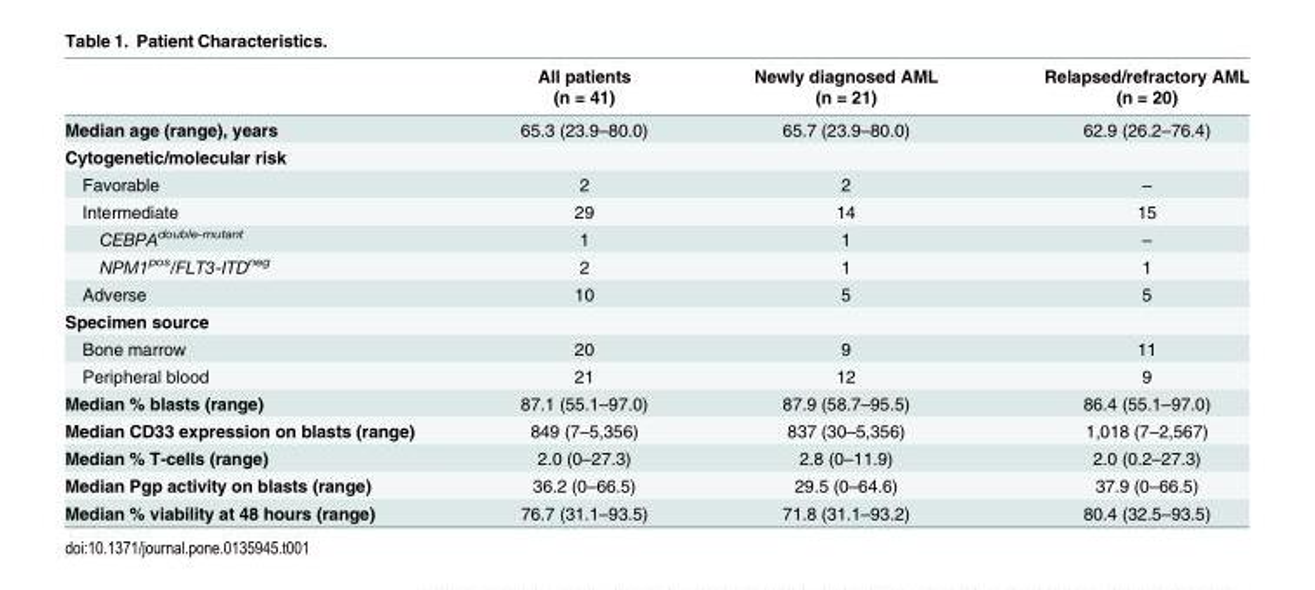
<table><thead><tr><td rowspan="2"></td><td rowspan="2">All patients (n = 41)</td><td rowspan="2">Newly diagnosed AML (n = 21)</td><td rowspan="2">Relapsed/refractory AML (n = 20)</td></tr><tr></tr></thead><tbody><tr><td>Median age (range), years</td><td>65.3 (23.9–80.0)</td><td>65.7 (23.9–80.0)</td><td>62.9 (26.2–76.4)</td></tr><tr><td colspan="4">Cytogenetic/molecular risk</td></tr><tr><td>Favorable</td><td>2</td><td>2</td><td>–</td></tr><tr><td>Intermediate</td><td>29</td><td>14</td><td>15</td></tr><tr><td>CEBPA<sup>double-mutant</sup></td><td>1</td><td>1</td><td>–</td></tr><tr><td>NPM1<sup>pos</sup>/FLT3-ITD<sup>neg</sup></td><td>2</td><td>1</td><td>1</td></tr><tr><td>Adverse</td><td>10</td><td>5</td><td>5</td></tr><tr><td colspan="4">Specimen source</td></tr><tr><td>Bone marrow</td><td>20</td><td>9</td><td>11</td></tr><tr><td>Peripheral blood</td><td>21</td><td>12</td><td>9</td></tr><tr><td>Median % blasts (range)</td><td>87.1 (55.1–97.0)</td><td>87.9 (58.7–95.5)</td><td>86.4 (55.1–97.0)</td></tr><tr><td>Median CD33 expression on blasts (range)</td><td>849 (7–5,356)</td><td>837 (30–5,356)</td><td>1,018 (7–2,567)</td></tr><tr><td>Median % T-cells (range)</td><td>2.0 (0–27.3)</td><td>2.8 (0–11.9)</td><td>2.0 (0.2–27.3)</td></tr><tr><td>Median Pgp activity on blasts (range)</td><td>36.2 (0–66.5)</td><td>29.5 (0–64.6)</td><td>37.9 (0–66.5)</td></tr><tr><td>Median % viability at 48 hours (range)</td><td>76.7 (31.1–93.5)</td><td>71.8 (31.1–93.2)</td><td>80.4 (32.5–93.5)</td></tr></tbody></table>